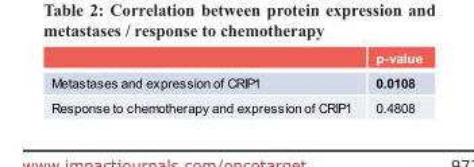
<table><thead><tr><td></td><td>p-value</td></tr></thead><tbody><tr><td>Metastases and expression of CRIP1</td><td>0.0108</td></tr><tr><td>Response to chemotherapy and expression of CRIP1</td><td>0.4808</td></tr></tbody></table>